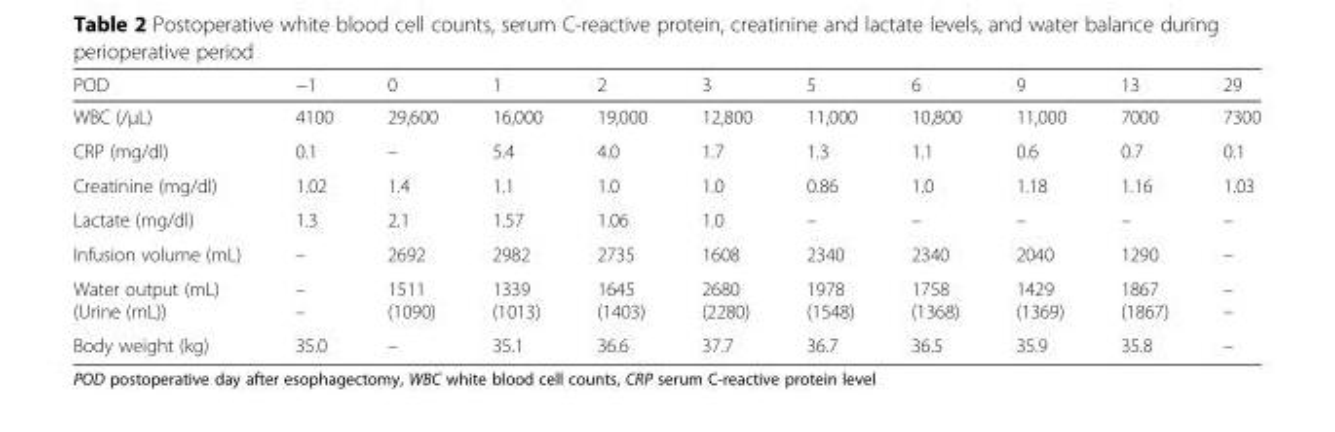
<table><thead><tr><td>POD</td><td>−1</td><td>0</td><td>1</td><td>2</td><td>3</td><td>5</td><td>6</td><td>9</td><td>13</td><td>29</td></tr></thead><tbody><tr><td>WBC (/μL)</td><td>4100</td><td>29,600</td><td>16,000</td><td>19,000</td><td>12,800</td><td>11,000</td><td>10,800</td><td>11,000</td><td>7000</td><td>7300</td></tr><tr><td>CRP (mg/dl)</td><td>0.1</td><td>–</td><td>5.4</td><td>4.0</td><td>1.7</td><td>1.3</td><td>1.1</td><td>0.6</td><td>0.7</td><td>0.1</td></tr><tr><td>Creatinine (mg/dl)</td><td>1.02</td><td>1.4</td><td>1.1</td><td>1.0</td><td>1.0</td><td>0.86</td><td>1.0</td><td>1.18</td><td>1.16</td><td>1.03</td></tr><tr><td>Lactate (mg/dl)</td><td>1.3</td><td>2.1</td><td>1.57</td><td>1.06</td><td>1.0</td><td>–</td><td>–</td><td>–</td><td>–</td><td>–</td></tr><tr><td>Infusion volume (mL)</td><td>–</td><td>2692</td><td>2982</td><td>2735</td><td>1608</td><td>2340</td><td>2340</td><td>2040</td><td>1290</td><td>–</td></tr><tr><td>Water output (mL) (Urine (mL))</td><td>– –</td><td>1511 (1090)</td><td>1339 (1013)</td><td>1645 (1403)</td><td>2680 (2280)</td><td>1978 (1548)</td><td>1758 (1368)</td><td>1429 (1369)</td><td>1867 (1867)</td><td>– –</td></tr><tr><td>Body weight (kg)</td><td>35.0</td><td>–</td><td>35.1</td><td>36.6</td><td>37.7</td><td>36.7</td><td>36.5</td><td>35.9</td><td>35.8</td><td>–</td></tr></tbody></table>